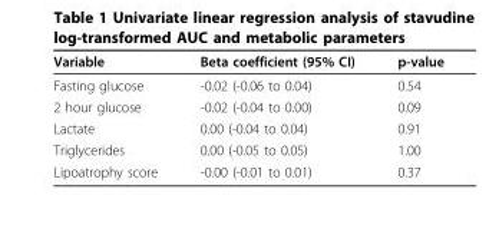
<table><thead><tr><td>Variable</td><td>Beta coefficient (95% CI)</td><td>p-value</td></tr></thead><tbody><tr><td>Fasting glucose</td><td>-0.02 (-0.06 to 0.04)</td><td>0.54</td></tr><tr><td>2 hour glucose</td><td>-0.02 (-0.04 to 0.00)</td><td>0.09</td></tr><tr><td>Lactate</td><td>0.00 (-0.04 to 0.04)</td><td>0.91</td></tr><tr><td>Triglycerides</td><td>0.00 (-0.05 to 0.05)</td><td>1.00</td></tr><tr><td>Lipoatrophy score</td><td>-0.00 (-0.01 to 0.01)</td><td>0.37</td></tr></tbody></table>